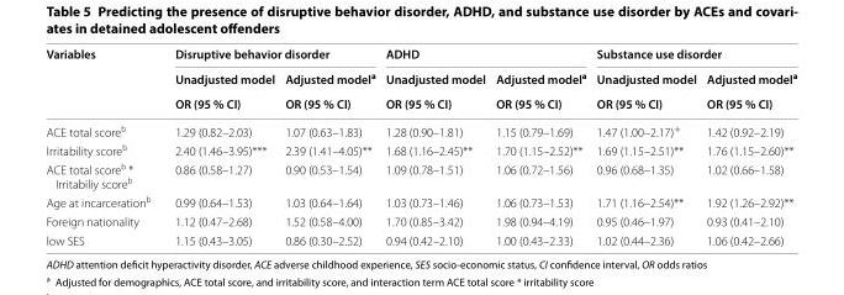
<table><thead><tr><td rowspan="3">Variables</td><td colspan="2">Disruptive behavior disorder</td><td colspan="2">ADHD</td><td colspan="2">Substance use disorder</td></tr><tr><td rowspan="2">Unadjusted model OR (95 % CI)</td><td rowspan="2">Adjusted model<sup>a</sup> OR (95 % CI)</td><td rowspan="2">Unadjusted model OR (95 % CI)</td><td rowspan="2">Adjusted model<sup>a</sup> OR (95 % CI)</td><td rowspan="2">Unadjusted model OR (95 % CI)</td><td rowspan="2">Adjusted model<sup>a</sup> OR (95 % CI)</td></tr><tr></tr></thead><tbody><tr><td>ACE total score<sup>b</sup></td><td>1.29 (0.82–2.03)</td><td>1.07 (0.63–1.83)</td><td>1.28 (0.90–1.81)</td><td>1.15 (0.79–1.69)</td><td>1.47 (1.00–2.17)<sup>+</sup></td><td>1.42 (0.92–2.19)</td></tr><tr><td>Irritability score<sup>b</sup></td><td>2.40 (1.46–3.95)***</td><td>2.39 (1.41–4.05)**</td><td>1.68 (1.16–2.45)**</td><td>1.70 (1.15–2.52)**</td><td>1.69 (1.15–2.51)**</td><td>1.76 (1.15–2.60)**</td></tr><tr><td>ACE total score<sup>b</sup> * Irritabiliy score<sup>b</sup></td><td>0.86 (0.58–1.27)</td><td>0.90 (0.53–1.54)</td><td>1.09 (0.78–1.51)</td><td>1.06 (0.72–1.56)</td><td>0.96 (0.68–1.35)</td><td>1.02 (0.66–1.58)</td></tr><tr><td>Age at incarceration<sup>b</sup></td><td>0.99 (0.64–1.53)</td><td>1.03 (0.64–1.64)</td><td>1.03 (0.73–1.46)</td><td>1.06 (0.73–1.53)</td><td>1.71 (1.16–2.54)**</td><td>1.92 (1.26–2.92)**</td></tr><tr><td>Foreign nationality</td><td>1.12 (0.47–2.68)</td><td>1.52 (0.58–4.00)</td><td>1.70 (0.85–3.42)</td><td>1.98 (0.94–4.19)</td><td>0.95 (0.46–1.97)</td><td>0.93 (0.41–2.10)</td></tr><tr><td>low SES</td><td>1.15 (0.43–3.05)</td><td>0.86 (0.30–2.52)</td><td>0.94 (0.42–2.10)</td><td>1.00 (0.43–2.33)</td><td>1.02 (0.44–2.36)</td><td>1.06 (0.42–2.66)</td></tr></tbody></table>